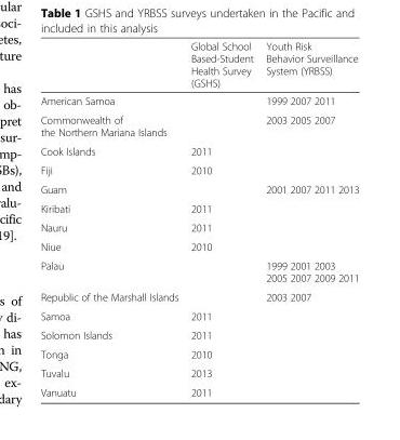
<table><thead><tr><td></td><td>Global School Based-Student Health Survey (GSHS)</td><td>Youth Risk Behavior Surveillance System (YRBSS)</td></tr></thead><tbody><tr><td>American Samoa</td><td></td><td>1999 2007 2011</td></tr><tr><td>Commonwealth of the Northern Mariana Islands</td><td></td><td>2003 2005 2007</td></tr><tr><td>Cook Islands</td><td>2011</td><td></td></tr><tr><td>Fiji</td><td>2010</td><td></td></tr><tr><td>Guam</td><td></td><td>2001 2007 2011 2013</td></tr><tr><td>Kiribati</td><td>2011</td><td></td></tr><tr><td>Nauru</td><td>2011</td><td></td></tr><tr><td>Niue</td><td>2010</td><td></td></tr><tr><td>Palau</td><td></td><td>1999 2001 2003 2005 2007 2009 2011</td></tr><tr><td>Republic of the Marshall Islands</td><td></td><td>2003 2007</td></tr><tr><td>Samoa</td><td>2011</td><td></td></tr><tr><td>Solomon Islands</td><td>2011</td><td></td></tr><tr><td>Tonga</td><td>2010</td><td></td></tr><tr><td>Tuvalu</td><td>2013</td><td></td></tr><tr><td>Vanuatu</td><td>2011</td><td></td></tr></tbody></table>